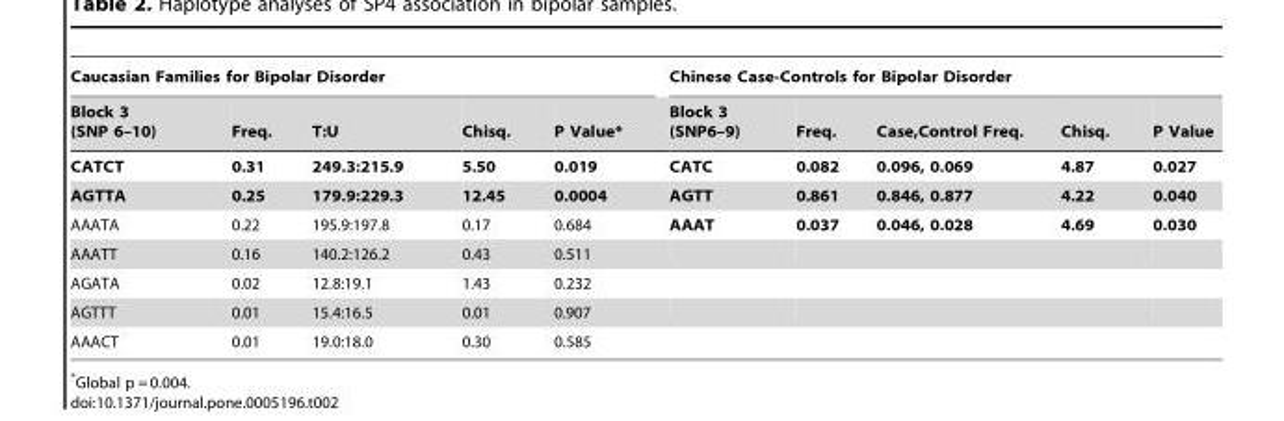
<table><thead><tr><td colspan="5">Caucasian Families for Bipolar Disorder</td><td colspan="5">Chinese Case-Controls for Bipolar Disorder</td></tr><tr><td>Block 3 (SNP 6–10)</td><td>Freq.</td><td>T:U</td><td>Chisq.</td><td>P Value*</td><td>Block 3 (SNP6–9)</td><td>Freq.</td><td>Case,Control Freq.</td><td>Chisq.</td><td>P Value</td></tr></thead><tbody><tr><td>CATCT</td><td>0.31</td><td>249.3:215.9</td><td>5.50</td><td>0.019</td><td>CATC</td><td>0.082</td><td>0.096, 0.069</td><td>4.87</td><td>0.027</td></tr><tr><td>AGTTA</td><td>0.25</td><td>179.9:229.3</td><td>12.45</td><td>0.0004</td><td>AGTT</td><td>0.861</td><td>0.846, 0.877</td><td>4.22</td><td>0.040</td></tr><tr><td>AAATA</td><td>0.22</td><td>195.9:197.8</td><td>0.17</td><td>0.684</td><td>AAAT</td><td>0.037</td><td>0.046, 0.028</td><td>4.69</td><td>0.030</td></tr><tr><td>AAATT</td><td>0.16</td><td>140.2:126.2</td><td>0.43</td><td>0.511</td><td></td><td></td><td></td><td></td><td></td></tr><tr><td>AGATA</td><td>0.02</td><td>12.8:19.1</td><td>1.43</td><td>0.232</td><td></td><td></td><td></td><td></td><td></td></tr><tr><td>AGTTT</td><td>0.01</td><td>15.4:16.5</td><td>0.01</td><td>0.907</td><td></td><td></td><td></td><td></td><td></td></tr><tr><td>AAACT</td><td>0.01</td><td>19.0:18.0</td><td>0.30</td><td>0.585</td><td></td><td></td><td></td><td></td><td></td></tr></tbody></table>